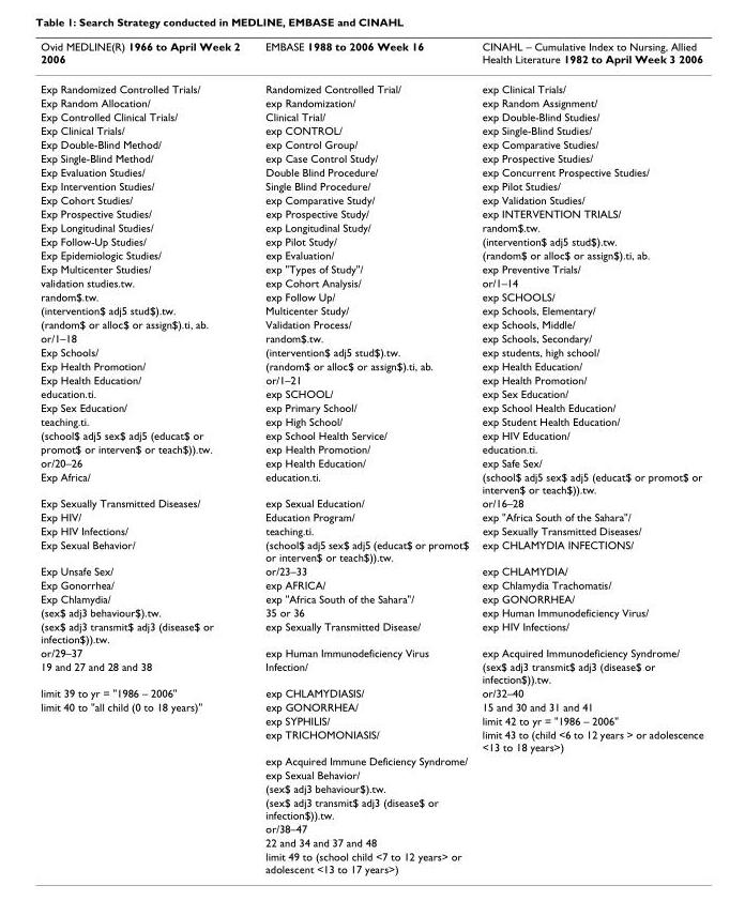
<table><thead><tr><td>Ovid MEDLINE(R) 1966 to April Week 2 2006</td><td>EMBASE 1988 to 2006 Week 16</td><td>CINAHL – Cumulative Index to Nursing, Allied Health Literature 1982 to April Week 3 2006</td></tr></thead><tbody><tr><td>Exp Randomized Controlled Trials/</td><td>Randomized Controlled Trial/</td><td>exp Clinical Trials/</td></tr><tr><td>Exp Random Allocation/</td><td>exp Randomization/</td><td>exp Random Assignment/</td></tr><tr><td>Exp Controlled Clinical Trials/</td><td>Clinical Trial/</td><td>exp Double-Blind Studies/</td></tr><tr><td>Exp Clinical Trials/</td><td>exp CONTROL/</td><td>exp Single-Blind Studies/</td></tr><tr><td>Exp Double-Blind Method/</td><td>exp Control Group/</td><td>exp Comparative Studies/</td></tr><tr><td>Exp Single-Blind Method/</td><td>exp Case Control Study/</td><td>exp Prospective Studies/</td></tr><tr><td>Exp Evaluation Studies/</td><td>Double Blind Procedure/</td><td>exp Concurrent Prospective Studies/</td></tr><tr><td>Exp Intervention Studies/</td><td>Single Blind Procedure/</td><td>exp Pilot Studies/</td></tr><tr><td>Exp Cohort Studies/</td><td>exp Comparative Study/</td><td>exp Validation Studies/</td></tr><tr><td>Exp Prospective Studies/</td><td>exp Prospective Study/</td><td>exp INTERVENTION TRIALS/</td></tr><tr><td>Exp Longitudinal Studies/</td><td>exp Longitudinal Study/</td><td>random$.tw.</td></tr><tr><td>Exp Follow-Up Studies/</td><td>exp Pilot Study/</td><td>(intervention$ adj5 stud$).tw.</td></tr><tr><td>Exp Epidemiologic Studies/</td><td>exp Evaluation/</td><td>(random$ or alloc$ or assign$).ti, ab.</td></tr><tr><td>Exp Multicenter Studies/</td><td>exp &quot;Types of Study&quot;/</td><td>exp Preventive Trials/</td></tr><tr><td>validation studies.tw.</td><td>exp Cohort Analysis/</td><td>or/1–14</td></tr><tr><td>random$.tw.</td><td>exp Follow Up/</td><td>exp SCHOOLS/</td></tr><tr><td>(intervention$ adj5 stud$).tw.</td><td>Multicenter Study/</td><td>exp Schools, Elementary/</td></tr><tr><td>(random$ or alloc$ or assign$).ti, ab.</td><td>Validation Process/</td><td>exp Schools, Middle/</td></tr><tr><td>or/1–18</td><td>random$.tw.</td><td>exp Schools, Secondary/</td></tr><tr><td>Exp Schools/</td><td>(intervention$ adj5 stud$).tw.</td><td>exp students, high school/</td></tr><tr><td>Exp Health Promotion/</td><td>(random$ or alloc$ or assign$).ti, ab.</td><td>exp Health Education/</td></tr><tr><td>Exp Health Education/</td><td>or/1–21</td><td>exp Health Promotion/</td></tr><tr><td>education.ti.</td><td>exp SCHOOL/</td><td>exp Sex Education/</td></tr><tr><td>Exp Sex Education/</td><td>exp Primary School/</td><td>exp School Health Education/</td></tr><tr><td>teaching.ti.</td><td>exp High School/</td><td>exp Student Health Education/</td></tr><tr><td>(school$ adj5 sex$ adj5 (educat$ or</td><td>exp School Health Service/</td><td>exp HIV Education/</td></tr><tr><td>promot$ or interven$ or teach$)).tw.</td><td>exp Health Promotion/</td><td>education.ti.</td></tr><tr><td>or/20–26</td><td>exp Health Education/</td><td>exp Safe Sex/</td></tr><tr><td>Exp Africa/</td><td>education.ti.</td><td>(school$ adj5 sex$ adj5 (educat$ or promot$ or interven$ or teach$)).tw.</td></tr><tr><td>Exp Sexually Transmitted Diseases/</td><td>exp Sexual Education/</td><td>or/16–28</td></tr><tr><td>Exp HIV/</td><td>Education Program/</td><td>exp &quot;Africa South of the Sahara&quot;/</td></tr><tr><td>Exp HIV Infections/</td><td>teaching.ti.</td><td>exp Sexually Transmitted Diseases/</td></tr><tr><td>Exp Sexual Behavior/</td><td>(school$ adj5 sex$ adj5 (educat$ or promot$ or interven$ or teach$)).tw.</td><td>exp CHLAMYDIA INFECTIONS/</td></tr><tr><td>Exp Unsafe Sex/</td><td>or/23–33</td><td>exp CHLAMYDIA/</td></tr><tr><td>Exp Gonorrhea/</td><td>exp AFRICA/</td><td>exp Chlamydia Trachomatis/</td></tr><tr><td>Exp Chlamydia/</td><td>exp &quot;Africa South of the Sahara&quot;/</td><td>exp GONORRHEA/</td></tr><tr><td>(sex$ adj3 behaviour$).tw.</td><td>35 or 36</td><td>exp Human Immunodeficiency Virus/</td></tr><tr><td>(sex$ adj3 transmit$ adj3 (disease$ or infection$)).tw.</td><td>exp Sexually Transmitted Disease/</td><td>exp HIV Infections/</td></tr><tr><td>or/29–37</td><td>exp Human Immunodeficiency Virus</td><td>exp Acquired Immunodeficiency Syndrome/</td></tr><tr><td>19 and 27 and 28 and 38</td><td>Infection/</td><td>(sex$ adj3 transmit$ adj3 (disease$ or infection$)).tw.</td></tr><tr><td>limit 39 to yr = &quot;1986 – 2006&quot;</td><td>exp CHLAMYDIASIS/</td><td>or/32–40</td></tr><tr><td rowspan="10">limit 40 to &quot;all child (0 to 18 years)&quot;</td><td>exp GONORRHEA/</td><td>15 and 30 and 31 and 41</td></tr><tr><td>exp SYPHILIS/</td><td>limit 42 to yr = &quot;1986 – 2006&quot;</td></tr><tr><td>exp TRICHOMONIASIS/</td><td>limit 43 to (child &lt;6 to 12 years &gt; or adolescence &lt;13 to 18 years&gt;)</td></tr><tr><td>exp Acquired Immune Deficiency Syndrome/</td><td></td></tr><tr><td>exp Sexual Behavior/</td><td></td></tr><tr><td>(sex$ adj3 behaviour$).tw.</td><td></td></tr><tr><td>(sex$ adj3 transmit$ adj3 (disease$ or infection$)).tw.</td><td></td></tr><tr><td>or/38–47</td><td></td></tr><tr><td>22 and 34 and 37 and 48</td><td></td></tr><tr><td>limit 49 to (school child &lt;7 to 12 years&gt; or adolescent &lt;13 to 17 years&gt;)</td><td></td></tr></tbody></table>